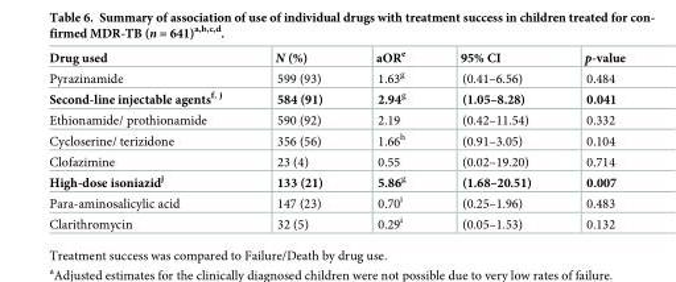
<table><thead><tr><td>Drug used</td><td>N (%)</td><td>aOR<sup>e</sup></td><td>95% CI</td><td>p-value</td></tr></thead><tbody><tr><td>Pyrazinamide</td><td>599 (93)</td><td>1.63<sup>g</sup></td><td>(0.41–6.56)</td><td>0.484</td></tr><tr><td>Second-line injectable agents<sup>f, j</sup></td><td>584 (91)</td><td>2.94<sup>g</sup></td><td>(1.05–8.28)</td><td>0.041</td></tr><tr><td>Ethionamide/ prothionamide</td><td>590 (92)</td><td>2.19</td><td>(0.42–11.54)</td><td>0.332</td></tr><tr><td>Cycloserine/ terizidone</td><td>356 (56)</td><td>1.66<sup>h</sup></td><td>(0.91–3.05)</td><td>0.104</td></tr><tr><td>Clofazimine</td><td>23 (4)</td><td>0.55</td><td>(0.02–19.20)</td><td>0.714</td></tr><tr><td>High-dose isoniazid<sup>j</sup></td><td>133 (21)</td><td>5.86<sup>g</sup></td><td>(1.68–20.51)</td><td>0.007</td></tr><tr><td>Para-aminosalicylic acid</td><td>147 (23)</td><td>0.70<sup>i</sup></td><td>(0.25–1.96)</td><td>0.483</td></tr><tr><td>Clarithromycin</td><td>32 (5)</td><td>0.29<sup>i</sup></td><td>(0.05–1.53)</td><td>0.132</td></tr></tbody></table>